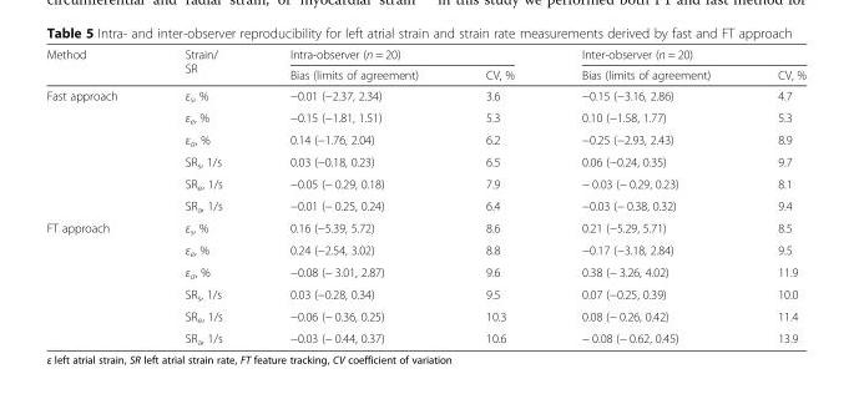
<table><thead><tr><td rowspan="2">Method</td><td rowspan="2">Strain/ SR</td><td colspan="2">Intra-observer (n = 20)</td><td colspan="2">Inter-observer (n = 20)</td></tr><tr><td>Bias (limits of agreement)</td><td>CV, %</td><td>Bias (limits of agreement)</td><td>CV, %</td></tr></thead><tbody><tr><td rowspan="6">Fast approach</td><td>ε<sub>s</sub>, %</td><td>−0.01 (−2.37, 2.34)</td><td>3.6</td><td>−0.15 (−3.16, 2.86)</td><td>4.7</td></tr><tr><td>ε<sub>e</sub>, %</td><td>−0.15 (−1.81, 1.51)</td><td>5.3</td><td>0.10 (−1.58, 1.77)</td><td>5.3</td></tr><tr><td>ε<sub>a</sub>, %</td><td>0.14 (−1.76, 2.04)</td><td>6.2</td><td>−0.25 (−2.93, 2.43)</td><td>8.9</td></tr><tr><td>SR<sub>s</sub>, 1/s</td><td>0.03 (−0.18, 0.23)</td><td>6.5</td><td>0.06 (−0.24, 0.35)</td><td>9.7</td></tr><tr><td>SR<sub>e</sub>, 1/s</td><td>−0.05 (− 0.29, 0.18)</td><td>7.9</td><td>− 0.03 (− 0.29, 0.23)</td><td>8.1</td></tr><tr><td>SR<sub>a</sub>, 1/s</td><td>−0.01 (− 0.25, 0.24)</td><td>6.4</td><td>−0.03 (− 0.38, 0.32)</td><td>9.4</td></tr><tr><td rowspan="6">FT approach</td><td>ε<sub>s</sub>, %</td><td>0.16 (−5.39, 5.72)</td><td>8.6</td><td>0.21 (−5.29, 5.71)</td><td>8.5</td></tr><tr><td>ε<sub>e</sub>, %</td><td>0.24 (−2.54, 3.02)</td><td>8.8</td><td>−0.17 (−3.18, 2.84)</td><td>9.5</td></tr><tr><td>ε<sub>a</sub>, %</td><td>−0.08 (− 3.01, 2.87)</td><td>9.6</td><td>0.38 (− 3.26, 4.02)</td><td>11.9</td></tr><tr><td>SR<sub>s</sub>, 1/s</td><td>0.03 (−0.28, 0.34)</td><td>9.5</td><td>0.07 (−0.25, 0.39)</td><td>10.0</td></tr><tr><td>SR<sub>e</sub>, 1/s</td><td>−0.06 (− 0.36, 0.25)</td><td>10.3</td><td>0.08 (− 0.26, 0.42)</td><td>11.4</td></tr><tr><td>SR<sub>a</sub>, 1/s</td><td>−0.03 (− 0.44, 0.37)</td><td>10.6</td><td>− 0.08 (− 0.62, 0.45)</td><td>13.9</td></tr></tbody></table>